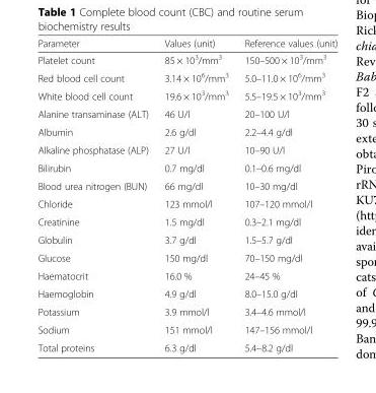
<table><thead><tr><td>Parameter</td><td>Values (unit)</td><td>Reference values (unit)</td></tr></thead><tbody><tr><td>Platelet count</td><td>85 × 10<sup>3</sup>/mm<sup>3</sup></td><td>150–500 × 10<sup>3</sup>/mm<sup>3</sup></td></tr><tr><td>Red blood cell count</td><td>3.14 × 10<sup>6</sup>/mm<sup>3</sup></td><td>5.0–11.0 × 10<sup>6</sup>/mm<sup>3</sup></td></tr><tr><td>White blood cell count</td><td>19.6 × 10<sup>3</sup>/mm<sup>3</sup></td><td>5.5–19.5 × 10<sup>3</sup>/mm<sup>3</sup></td></tr><tr><td>Alanine transaminase (ALT)</td><td>46 U/l</td><td>20–100 U/l</td></tr><tr><td>Albumin</td><td>2.6 g/dl</td><td>2.2–4.4 g/dl</td></tr><tr><td>Alkaline phosphatase (ALP)</td><td>27 U/l</td><td>10–90 U/l</td></tr><tr><td>Bilirubin</td><td>0.7 mg/dl</td><td>0.1–0.6 mg/dl</td></tr><tr><td>Blood urea nitrogen (BUN)</td><td>66 mg/dl</td><td>10–30 mg/dl</td></tr><tr><td>Chloride</td><td>123 mmol/l</td><td>107–120 mmol/l</td></tr><tr><td>Creatinine</td><td>1.5 mg/dl</td><td>0.3–2.1 mg/dl</td></tr><tr><td>Globulin</td><td>3.7 g/dl</td><td>1.5–5.7 g/dl</td></tr><tr><td>Glucose</td><td>150 mg/dl</td><td>70–150 mg/dl</td></tr><tr><td>Haematocrit</td><td>16.0 %</td><td>24–45 %</td></tr><tr><td>Haemoglobin</td><td>4.9 g/dl</td><td>8.0–15.0 g/dl</td></tr><tr><td>Potassium</td><td>3.9 mmol/l</td><td>3.4–4.6 mmol/l</td></tr><tr><td>Sodium</td><td>151 mmol/l</td><td>147–156 mmol/l</td></tr><tr><td>Total proteins</td><td>6.3 g/dl</td><td>5.4–8.2 g/dl</td></tr></tbody></table>